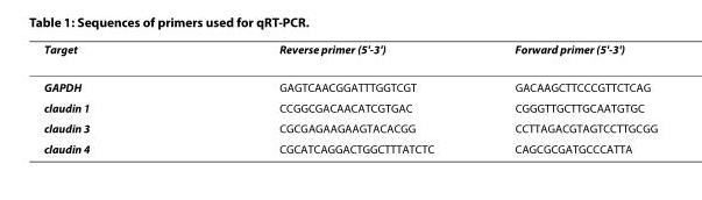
<table><thead><tr><td>Target</td><td>Reverse primer (5&#x27;-3&#x27;)</td><td>Forward primer (5&#x27;-3&#x27;)</td></tr></thead><tbody><tr><td>GAPDH</td><td>GAGTCAACGGATTTGGTCGT</td><td>GACAAGCTTCCCGTTCTCAG</td></tr><tr><td>claudin 1</td><td>CCGGCGACAACATCGTGAC</td><td>CGGGTTGCTTGCAATGTGC</td></tr><tr><td>claudin 3</td><td>CGCGAGAAGAAGTACACGG</td><td>CCTTAGACGTAGTCCTTGCGG</td></tr><tr><td>claudin 4</td><td>CGCATCAGGACTGGCTTTATCTC</td><td>CAGCGCGATGCCCATTA</td></tr></tbody></table>